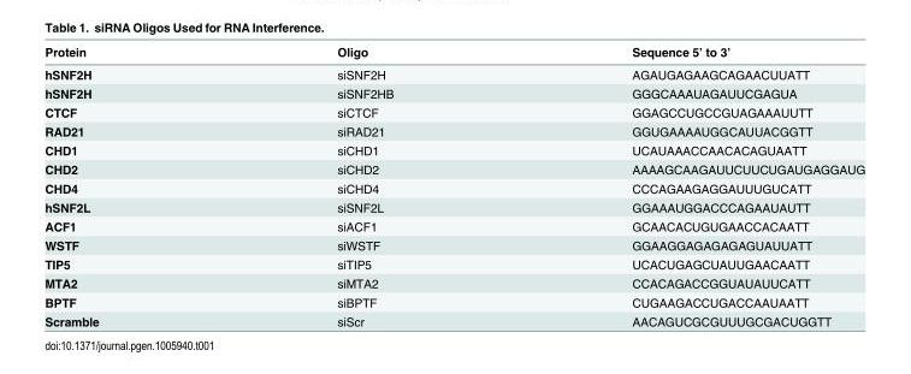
<table><thead><tr><td>Protein</td><td>Oligo</td><td>Sequence 5’ to 3’</td></tr></thead><tbody><tr><td>hSNF2H</td><td>siSNF2H</td><td>AGAUGAGAAGCAGAACUUATT</td></tr><tr><td>hSNF2H</td><td>siSNF2HB</td><td>GGGCAAAUAGAUUCGAGUA</td></tr><tr><td>CTCF</td><td>siCTCF</td><td>GGAGCCUGCCGUAGAAAUUTT</td></tr><tr><td>RAD21</td><td>siRAD21</td><td>GGUGAAAAUGGCAUUACGGTT</td></tr><tr><td>CHD1</td><td>siCHD1</td><td>UCAUAAACCAACACAGUAATT</td></tr><tr><td>CHD2</td><td>siCHD2</td><td>AAAAGCAAGAUUCUUCUGAUGAGGAUG</td></tr><tr><td>CHD4</td><td>siCHD4</td><td>CCCAGAAGAGGAUUUGUCATT</td></tr><tr><td>hSNF2L</td><td>siSNF2L</td><td>GGAAAUGGACCCAGAAUAUTT</td></tr><tr><td>ACF1</td><td>siACF1</td><td>GCAACACUGUGAACCACAATT</td></tr><tr><td>WSTF</td><td>siWSTF</td><td>GGAAGGAGAGAGAGUAUUATT</td></tr><tr><td>TIP5</td><td>siTIP5</td><td>UCACUGAGCUAUUGAACAATT</td></tr><tr><td>MTA2</td><td>siMTA2</td><td>CCACAGACCGGUAUAUUCATT</td></tr><tr><td>BPTF</td><td>siBPTF</td><td>CUGAAGACCUGACCAAUAATT</td></tr><tr><td>Scramble</td><td>siScr</td><td>AACAGUCGCGUUUGCGACUGGTT</td></tr></tbody></table>